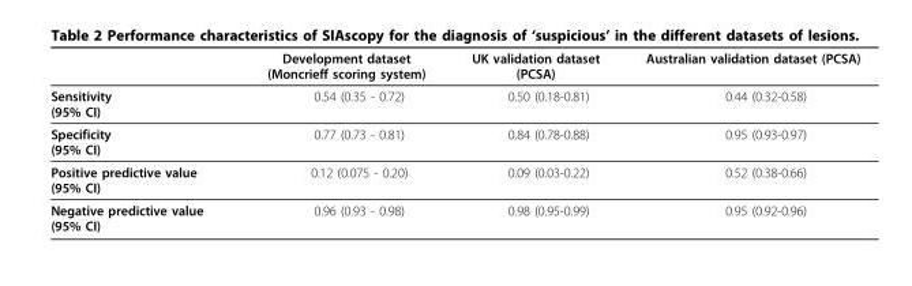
<table><thead><tr><td></td><td>Development dataset (Moncrieff scoring system)</td><td>UK validation dataset (PCSA)</td><td>Australian validation dataset (PCSA)</td></tr></thead><tbody><tr><td>Sensitivity (95% CI)</td><td>0.54 (0.35 - 0.72)</td><td>0.50 (0.18-0.81)</td><td>0.44 (0.32-0.58)</td></tr><tr><td>Specificity (95% CI)</td><td>0.77 (0.73 - 0.81)</td><td>0.84 (0.78-0.88)</td><td>0.95 (0.93-0.97)</td></tr><tr><td>Positive predictive value (95% CI)</td><td>0.12 (0.075 - 0.20)</td><td>0.09 (0.03-0.22)</td><td>0.52 (0.38-0.66)</td></tr><tr><td>Negative predictive value (95% CI)</td><td>0.96 (0.93 - 0.98)</td><td>0.98 (0.95-0.99)</td><td>0.95 (0.92-0.96)</td></tr></tbody></table>